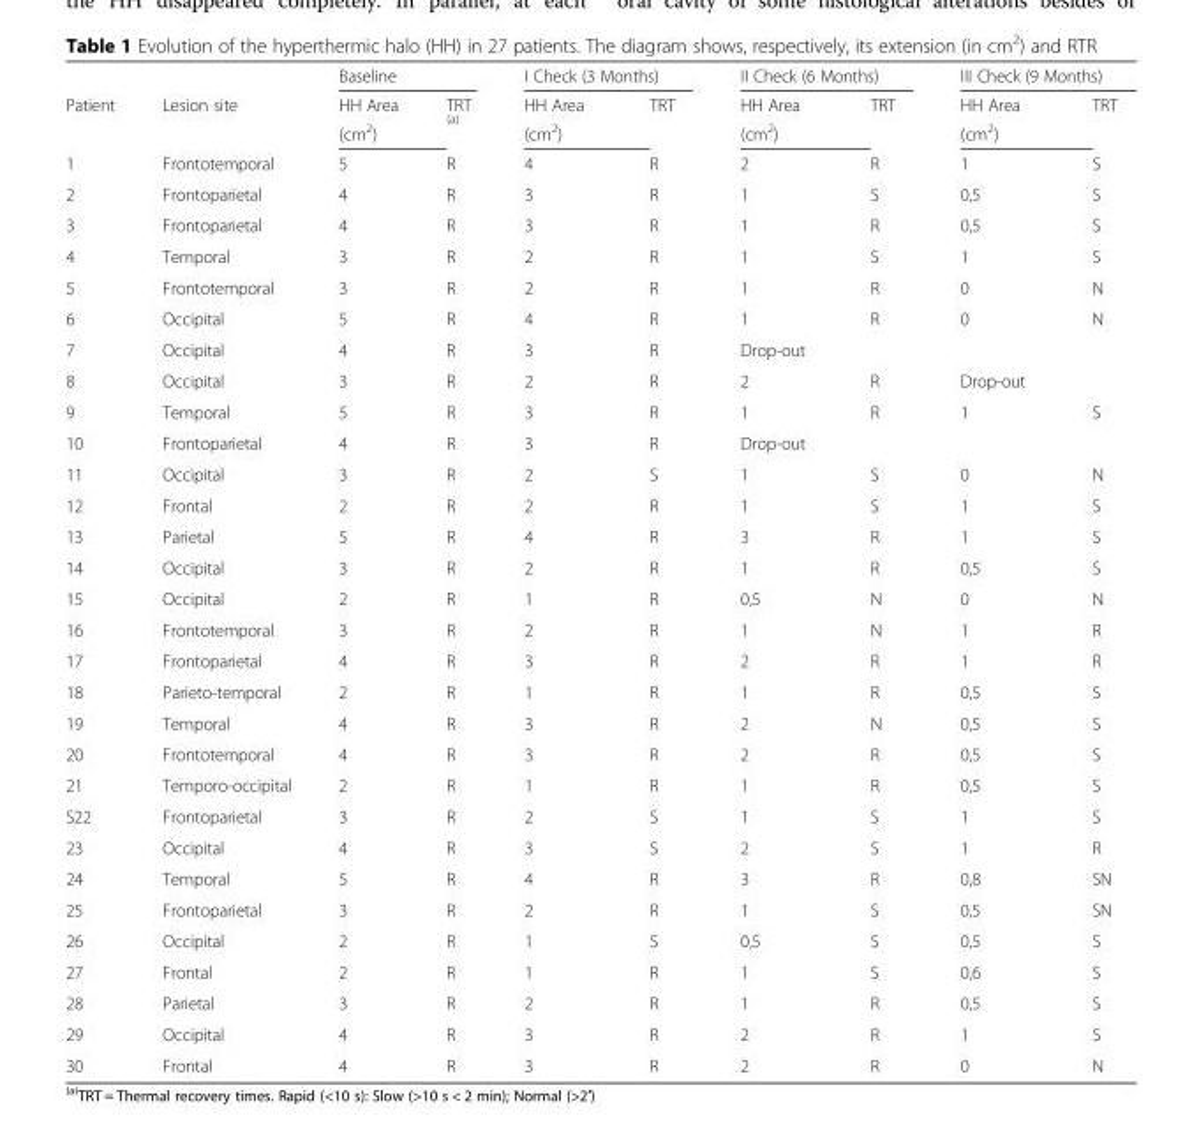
<table><thead><tr><td rowspan="3">Patient</td><td rowspan="3">Lesion site</td><td colspan="2">Baseline</td><td colspan="2">I Check (3 Months)</td><td colspan="2">II Check (6 Months)</td><td colspan="2">III Check (9 Months)</td></tr><tr><td rowspan="2">HH Area (cm<sup>2</sup>)</td><td rowspan="2">TRT <sup>(a)</sup></td><td rowspan="2">HH Area (cm<sup>2</sup>)</td><td rowspan="2">TRT</td><td rowspan="2">HH Area (cm<sup>2</sup>)</td><td rowspan="2">TRT</td><td rowspan="2">HH Area (cm<sup>2</sup>)</td><td rowspan="2">TRT</td></tr><tr></tr></thead><tbody><tr><td>1</td><td>Frontotemporal</td><td>5</td><td>R</td><td>4</td><td>R</td><td>2</td><td>R</td><td>1</td><td>S</td></tr><tr><td>2</td><td>Frontoparietal</td><td>4</td><td>R</td><td>3</td><td>R</td><td>1</td><td>S</td><td>0,5</td><td>S</td></tr><tr><td>3</td><td>Frontoparietal</td><td>4</td><td>R</td><td>3</td><td>R</td><td>1</td><td>R</td><td>0,5</td><td>S</td></tr><tr><td>4</td><td>Temporal</td><td>3</td><td>R</td><td>2</td><td>R</td><td>1</td><td>S</td><td>1</td><td>S</td></tr><tr><td>5</td><td>Frontotemporal</td><td>3</td><td>R</td><td>2</td><td>R</td><td>1</td><td>R</td><td>0</td><td>N</td></tr><tr><td>6</td><td>Occipital</td><td>5</td><td>R</td><td>4</td><td>R</td><td>1</td><td>R</td><td>0</td><td>N</td></tr><tr><td>7</td><td>Occipital</td><td>4</td><td>R</td><td>3</td><td>R</td><td>Drop-out</td><td></td><td></td><td></td></tr><tr><td>8</td><td>Occipital</td><td>3</td><td>R</td><td>2</td><td>R</td><td>2</td><td>R</td><td>Drop-out</td><td></td></tr><tr><td>9</td><td>Temporal</td><td>5</td><td>R</td><td>3</td><td>R</td><td>1</td><td>R</td><td>1</td><td>S</td></tr><tr><td>10</td><td>Frontoparietal</td><td>4</td><td>R</td><td>3</td><td>R</td><td>Drop-out</td><td></td><td></td><td></td></tr><tr><td>11</td><td>Occipital</td><td>3</td><td>R</td><td>2</td><td>S</td><td>1</td><td>S</td><td>0</td><td>N</td></tr><tr><td>12</td><td>Frontal</td><td>2</td><td>R</td><td>2</td><td>R</td><td>1</td><td>S</td><td>1</td><td>S</td></tr><tr><td>13</td><td>Parietal</td><td>5</td><td>R</td><td>4</td><td>R</td><td>3</td><td>R</td><td>1</td><td>S</td></tr><tr><td>14</td><td>Occipital</td><td>3</td><td>R</td><td>2</td><td>R</td><td>1</td><td>R</td><td>0,5</td><td>S</td></tr><tr><td>15</td><td>Occipital</td><td>2</td><td>R</td><td>1</td><td>R</td><td>0,5</td><td>N</td><td>0</td><td>N</td></tr><tr><td>16</td><td>Frontotemporal</td><td>3</td><td>R</td><td>2</td><td>R</td><td>1</td><td>N</td><td>1</td><td>R</td></tr><tr><td>17</td><td>Frontoparietal</td><td>4</td><td>R</td><td>3</td><td>R</td><td>2</td><td>R</td><td>1</td><td>R</td></tr><tr><td>18</td><td>Parieto-temporal</td><td>2</td><td>R</td><td>1</td><td>R</td><td>1</td><td>R</td><td>0,5</td><td>S</td></tr><tr><td>19</td><td>Temporal</td><td>4</td><td>R</td><td>3</td><td>R</td><td>2</td><td>N</td><td>0,5</td><td>S</td></tr><tr><td>20</td><td>Frontotemporal</td><td>4</td><td>R</td><td>3</td><td>R</td><td>2</td><td>R</td><td>0,5</td><td>S</td></tr><tr><td>21</td><td>Temporo-occipital</td><td>2</td><td>R</td><td>1</td><td>R</td><td>1</td><td>R</td><td>0,5</td><td>S</td></tr><tr><td>S22</td><td>Frontoparietal</td><td>3</td><td>R</td><td>2</td><td>S</td><td>1</td><td>S</td><td>1</td><td>S</td></tr><tr><td>23</td><td>Occipital</td><td>4</td><td>R</td><td>3</td><td>S</td><td>2</td><td>S</td><td>1</td><td>R</td></tr><tr><td>24</td><td>Temporal</td><td>5</td><td>R</td><td>4</td><td>R</td><td>3</td><td>R</td><td>0,8</td><td>SN</td></tr><tr><td>25</td><td>Frontoparietal</td><td>3</td><td>R</td><td>2</td><td>R</td><td>1</td><td>S</td><td>0,5</td><td>SN</td></tr><tr><td>26</td><td>Occipital</td><td>2</td><td>R</td><td>1</td><td>S</td><td>0,5</td><td>S</td><td>0,5</td><td>S</td></tr><tr><td>27</td><td>Frontal</td><td>2</td><td>R</td><td>1</td><td>R</td><td>1</td><td>S</td><td>0,6</td><td>S</td></tr><tr><td>28</td><td>Parietal</td><td>3</td><td>R</td><td>2</td><td>R</td><td>1</td><td>R</td><td>0,5</td><td>S</td></tr><tr><td>29</td><td>Occipital</td><td>4</td><td>R</td><td>3</td><td>R</td><td>2</td><td>R</td><td>1</td><td>S</td></tr><tr><td>30</td><td>Frontal</td><td>4</td><td>R</td><td>3</td><td>R</td><td>2</td><td>R</td><td>0</td><td>N</td></tr></tbody></table>